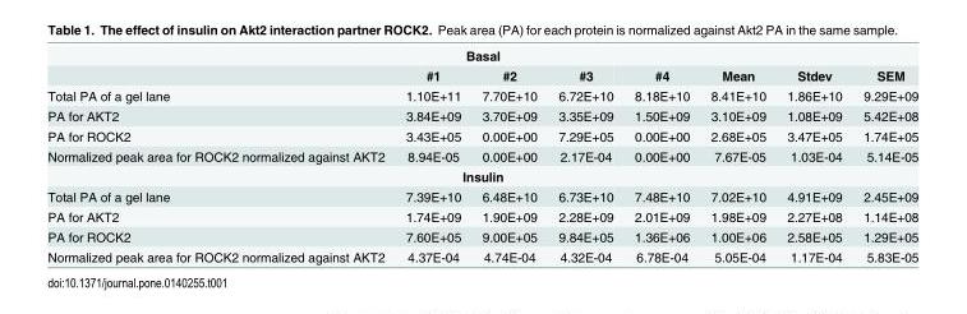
<table><tbody><tr><td colspan="8">Basal</td></tr><tr><td></td><td>#1</td><td>#2</td><td>#3</td><td>#4</td><td>Mean</td><td>Stdev</td><td>SEM</td></tr><tr><td>Total PA of a gel lane</td><td>1.10E+11</td><td>7.70E+10</td><td>6.72E+10</td><td>8.18E+10</td><td>8.41E+10</td><td>1.86E+10</td><td>9.29E+09</td></tr><tr><td>PA for AKT2</td><td>3.84E+09</td><td>3.70E+09</td><td>3.35E+09</td><td>1.50E+09</td><td>3.10E+09</td><td>1.08E+09</td><td>5.42E+08</td></tr><tr><td>PA for ROCK2</td><td>3.43E+05</td><td>0.00E+00</td><td>7.29E+05</td><td>0.00E+00</td><td>2.68E+05</td><td>3.47E+05</td><td>1.74E+05</td></tr><tr><td>Normalized peak area for ROCK2 normalized against AKT2</td><td>8.94E-05</td><td>0.00E+00</td><td>2.17E-04</td><td>0.00E+00</td><td>7.67E-05</td><td>1.03E-04</td><td>5.14E-05</td></tr><tr><td colspan="8">Insulin</td></tr><tr><td>Total PA of a gel lane</td><td>7.39E+10</td><td>6.48E+10</td><td>6.73E+10</td><td>7.48E+10</td><td>7.02E+10</td><td>4.91E+09</td><td>2.45E+09</td></tr><tr><td>PA for AKT2</td><td>1.74E+09</td><td>1.90E+09</td><td>2.28E+09</td><td>2.01E+09</td><td>1.98E+09</td><td>2.27E+08</td><td>1.14E+08</td></tr><tr><td>PA for ROCK2</td><td>7.60E+05</td><td>9.00E+05</td><td>9.84E+05</td><td>1.36E+06</td><td>1.00E+06</td><td>2.58E+05</td><td>1.29E+05</td></tr><tr><td>Normalized peak area for ROCK2 normalized against AKT2</td><td>4.37E-04</td><td>4.74E-04</td><td>4.32E-04</td><td>6.78E-04</td><td>5.05E-04</td><td>1.17E-04</td><td>5.83E-05</td></tr></tbody></table>